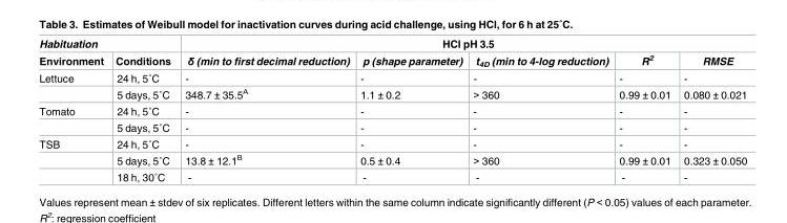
<table><thead><tr><td colspan="2">Habituation</td><td colspan="5">HCl pH 3.5</td></tr><tr><td>Environment</td><td>Conditions</td><td>δ (min to first decimal reduction)</td><td>p (shape parameter)</td><td>t<sub>4D</sub> (min to 4-log reduction)</td><td>R<sup>2</sup></td><td>RMSE</td></tr></thead><tbody><tr><td rowspan="2">Lettuce</td><td>24 h, 5˚C</td><td>-</td><td>-</td><td>-</td><td>-</td><td>-</td></tr><tr><td>5 days, 5˚C</td><td>348.7 ± 35.5<sup>Α</sup></td><td>1.1 ± 0.2</td><td>&gt; 360</td><td>0.99 ± 0.01</td><td>0.080 ± 0.021</td></tr><tr><td rowspan="2">Tomato</td><td>24 h, 5˚C</td><td>-</td><td>-</td><td>-</td><td>-</td><td>-</td></tr><tr><td>5 days, 5˚C</td><td>-</td><td>-</td><td>-</td><td>-</td><td>-</td></tr><tr><td rowspan="3">TSB</td><td>24 h, 5˚C</td><td>-</td><td>-</td><td>-</td><td>-</td><td>-</td></tr><tr><td>5 days, 5˚C</td><td>13.8 ± 12.1<sup>Β</sup></td><td>0.5 ± 0.4</td><td>&gt; 360</td><td>0.99 ± 0.01</td><td>0.323 ± 0.050</td></tr><tr><td>18 h, 30˚C</td><td>-</td><td>-</td><td>-</td><td>-</td><td>-</td></tr></tbody></table>